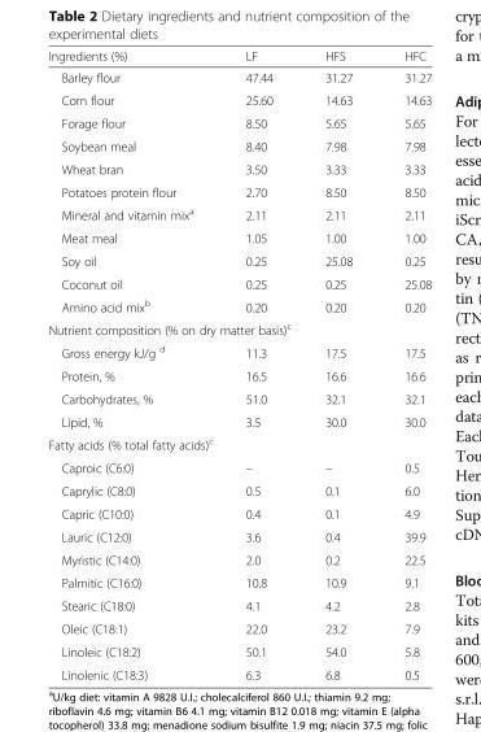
<table><thead><tr><td>Ingredients (%)</td><td>LF</td><td>HFS</td><td>HFC</td></tr></thead><tbody><tr><td>Barley flour</td><td>47.44</td><td>31.27</td><td>31.27</td></tr><tr><td>Corn flour</td><td>25.60</td><td>14.63</td><td>14.63</td></tr><tr><td>Forage flour</td><td>8.50</td><td>5.65</td><td>5.65</td></tr><tr><td>Soybean meal</td><td>8.40</td><td>7.98</td><td>7.98</td></tr><tr><td>Wheat bran</td><td>3.50</td><td>3.33</td><td>3.33</td></tr><tr><td>Potatoes protein flour</td><td>2.70</td><td>8.50</td><td>8.50</td></tr><tr><td>Mineral and vitamin mix<sup>a</sup></td><td>2.11</td><td>2.11</td><td>2.11</td></tr><tr><td>Meat meal</td><td>1.05</td><td>1.00</td><td>1.00</td></tr><tr><td>Soy oil</td><td>0.25</td><td>25.08</td><td>0.25</td></tr><tr><td>Coconut oil</td><td>0.25</td><td>0.25</td><td>25.08</td></tr><tr><td>Amino acid mix<sup>b</sup></td><td>0.20</td><td>0.20</td><td>0.20</td></tr><tr><td colspan="4">Nutrient composition (% on dry matter basis)<sup>c</sup></td></tr><tr><td>Gross energy kJ/g <sup>d</sup></td><td>11.3</td><td>17.5</td><td>17.5</td></tr><tr><td>Protein, %</td><td>16.5</td><td>16.6</td><td>16.6</td></tr><tr><td>Carbohydrates, %</td><td>51.0</td><td>32.1</td><td>32.1</td></tr><tr><td>Lipid, %</td><td>3.5</td><td>30.0</td><td>30.0</td></tr><tr><td colspan="4">Fatty acids (% total fatty acids)<sup>c</sup></td></tr><tr><td>Caproic (C6:0)</td><td>–</td><td>–</td><td>0.5</td></tr><tr><td>Caprylic (C8:0)</td><td>0.5</td><td>0.1</td><td>6.0</td></tr><tr><td>Capric (C10:0)</td><td>0.4</td><td>0.1</td><td>4.9</td></tr><tr><td>Lauric (C12:0)</td><td>3.6</td><td>0.4</td><td>39.9</td></tr><tr><td>Myristic (C14:0)</td><td>2.0</td><td>0.2</td><td>22.5</td></tr><tr><td>Palmitic (C16:0)</td><td>10.8</td><td>10.9</td><td>9.1</td></tr><tr><td>Stearic (C18:0)</td><td>4.1</td><td>4.2</td><td>2.8</td></tr><tr><td>Oleic (C18:1)</td><td>22.0</td><td>23.2</td><td>7.9</td></tr><tr><td>Linoleic (C18:2)</td><td>50.1</td><td>54.0</td><td>5.8</td></tr><tr><td>Linolenic (C18:3)</td><td>6.3</td><td>6.8</td><td>0.5</td></tr></tbody></table>